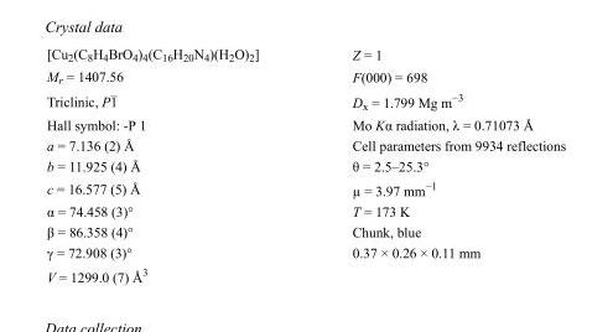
<table><tbody><tr><td>[Cu<sub>2</sub>(C<sub>8</sub>H<sub>4</sub>BrO<sub>4</sub>)<sub>4</sub>(C<sub>16</sub>H<sub>20</sub>N<sub>4</sub>)(H<sub>2</sub>O)<sub>2</sub>]</td><td>Z = 1</td></tr><tr><td>M<sub>r</sub> = 1407.56</td><td>F(000) = 698</td></tr><tr><td>Triclinic, P1</td><td>D<sub>x</sub> = 1.799 Mg m<sup>−3</sup></td></tr><tr><td>Hall symbol: -P 1</td><td>Mo Kα radiation, λ = 0.71073 Å</td></tr><tr><td>a = 7.136 (2) Å</td><td>Cell parameters from 9934 reflections</td></tr><tr><td>b = 11.925 (4) Å</td><td>θ = 2.5–25.3°</td></tr><tr><td>c = 16.577 (5) Å</td><td>µ = 3.97 mm<sup>−1</sup></td></tr><tr><td>α = 74.458 (3)°</td><td>T = 173 K</td></tr><tr><td>β = 86.358 (4)°</td><td>Chunk, blue</td></tr><tr><td>γ = 72.908 (3)°</td><td>0.37 × 0.26 × 0.11 mm</td></tr><tr><td>V = 1299.0 (7) Å<sup>3</sup></td><td></td></tr></tbody></table>